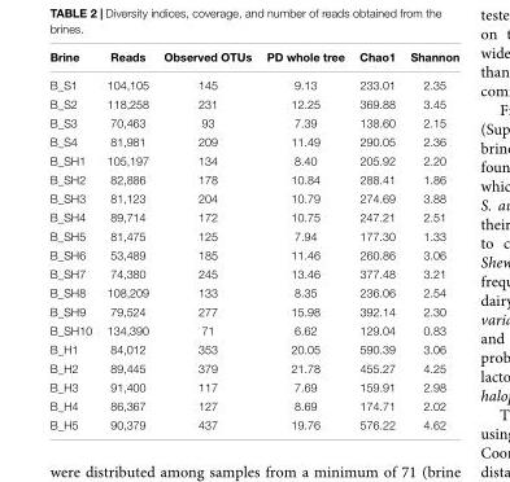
<table><thead><tr><td>Brine</td><td>Reads</td><td>Observed OTUs</td><td>PD whole tree</td><td>Chao1</td><td>Shannon</td></tr></thead><tbody><tr><td>B_S1</td><td>104,105</td><td>145</td><td>9.13</td><td>233.01</td><td>2.35</td></tr><tr><td>B_S2</td><td>118,258</td><td>231</td><td>12.25</td><td>369.88</td><td>3.45</td></tr><tr><td>B_S3</td><td>70,463</td><td>93</td><td>7.39</td><td>138.60</td><td>2.15</td></tr><tr><td>B_S4</td><td>81,981</td><td>209</td><td>11.49</td><td>290.05</td><td>2.36</td></tr><tr><td>B_SH1</td><td>105,197</td><td>134</td><td>8.40</td><td>205.92</td><td>2.20</td></tr><tr><td>B_SH2</td><td>82,886</td><td>178</td><td>10.84</td><td>288.41</td><td>1.86</td></tr><tr><td>B_SH3</td><td>81,123</td><td>204</td><td>10.79</td><td>274.69</td><td>3.88</td></tr><tr><td>B_SH4</td><td>89,714</td><td>172</td><td>10.75</td><td>247.21</td><td>2.51</td></tr><tr><td>B_SH5</td><td>81,475</td><td>125</td><td>7.94</td><td>177.30</td><td>1.33</td></tr><tr><td>B_SH6</td><td>53,489</td><td>185</td><td>11.46</td><td>260.86</td><td>3.06</td></tr><tr><td>B_SH7</td><td>74,380</td><td>245</td><td>13.46</td><td>377.48</td><td>3.21</td></tr><tr><td>B_SH8</td><td>108,209</td><td>133</td><td>8.35</td><td>236.06</td><td>2.54</td></tr><tr><td>B_SH9</td><td>79,524</td><td>277</td><td>15.98</td><td>392.14</td><td>2.30</td></tr><tr><td>B_SH10</td><td>134,390</td><td>71</td><td>6.62</td><td>129.04</td><td>0.83</td></tr><tr><td>B_H1</td><td>84,012</td><td>353</td><td>20.05</td><td>590.39</td><td>3.06</td></tr><tr><td>B_H2</td><td>89,445</td><td>379</td><td>21.78</td><td>455.27</td><td>4.25</td></tr><tr><td>B_H3</td><td>91,400</td><td>117</td><td>7.69</td><td>159.91</td><td>2.98</td></tr><tr><td>B_H4</td><td>86,367</td><td>127</td><td>8.69</td><td>174.71</td><td>2.02</td></tr><tr><td>B_H5</td><td>90,379</td><td>437</td><td>19.76</td><td>576.22</td><td>4.62</td></tr></tbody></table>